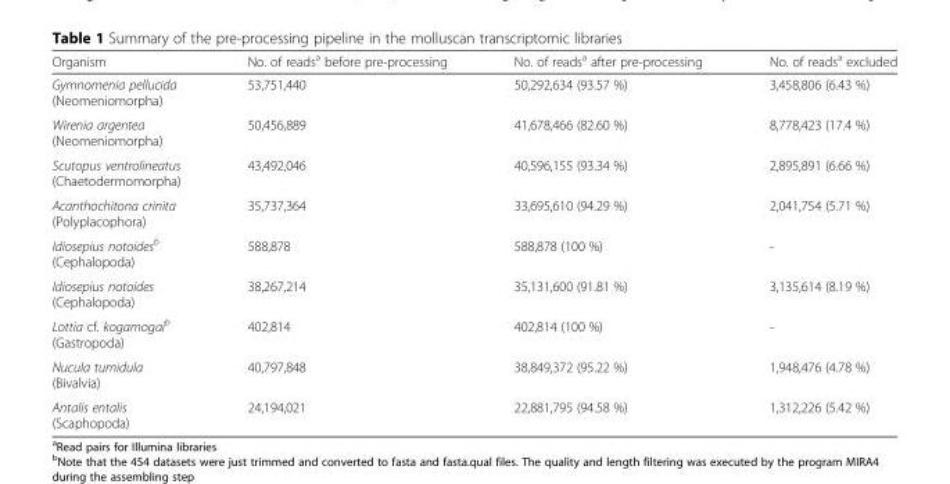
<table><thead><tr><td>Organism</td><td>No. of reads<sup>a</sup> before pre-processing</td><td>No. of reads<sup>a</sup> after pre-processing</td><td>No. of reads<sup>a</sup> excluded</td></tr></thead><tbody><tr><td>Gymnomenia pellucida (Neomeniomorpha)</td><td>53,751,440</td><td>50,292,634 (93.57 %)</td><td>3,458,806 (6.43 %)</td></tr><tr><td>Wirenia argentea (Neomeniomorpha)</td><td>50,456,889</td><td>41,678,466 (82.60 %)</td><td>8,778,423 (17.4 %)</td></tr><tr><td>Scutopus ventrolineatus (Chaetodermomorpha)</td><td>43,492,046</td><td>40,596,155 (93.34 %)</td><td>2,895,891 (6.66 %)</td></tr><tr><td>Acanthochitona crinita (Polyplacophora)</td><td>35,737,364</td><td>33,695,610 (94.29 %)</td><td>2,041,754 (5.71 %)</td></tr><tr><td>Idiosepius notoides<sup>b</sup> (Cephalopoda)</td><td>588,878</td><td>588,878 (100 %)</td><td>-</td></tr><tr><td>Idiosepius notoides (Cephalopoda)</td><td>38,267,214</td><td>35,131,600 (91.81 %)</td><td>3,135,614 (8.19 %)</td></tr><tr><td>Lottia cf. kogamogai<sup>b</sup> (Gastropoda)</td><td>402,814</td><td>402,814 (100 %)</td><td>-</td></tr><tr><td>Nucula tumidula (Bivalvia)</td><td>40,797,848</td><td>38,849,372 (95.22 %)</td><td>1,948,476 (4.78 %)</td></tr><tr><td>Antalis entalis (Scaphopoda)</td><td>24,194,021</td><td>22,881,795 (94.58 %)</td><td>1,312,226 (5.42 %)</td></tr></tbody></table>